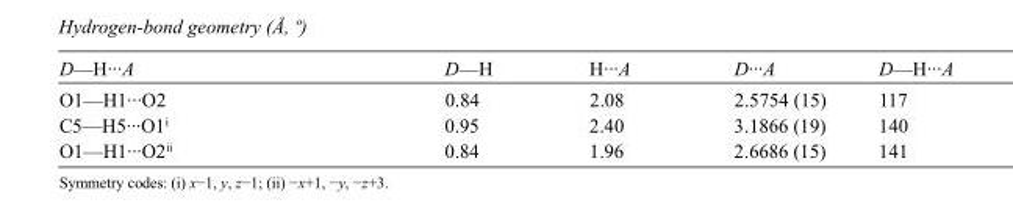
<table><tbody><tr><td>D—H···A</td><td>D—H</td><td>H···A</td><td>D···A</td><td>D—H···A</td></tr><tr><td>O1—H1···O2</td><td>0.84</td><td>2.08</td><td>2.5754 (15)</td><td>117</td></tr><tr><td>C5—H5···O1<sup>i</sup></td><td>0.95</td><td>2.40</td><td>3.1866 (19)</td><td>140</td></tr><tr><td>O1—H1···O2<sup>ii</sup></td><td>0.84</td><td>1.96</td><td>2.6686 (15)</td><td>141</td></tr></tbody></table>